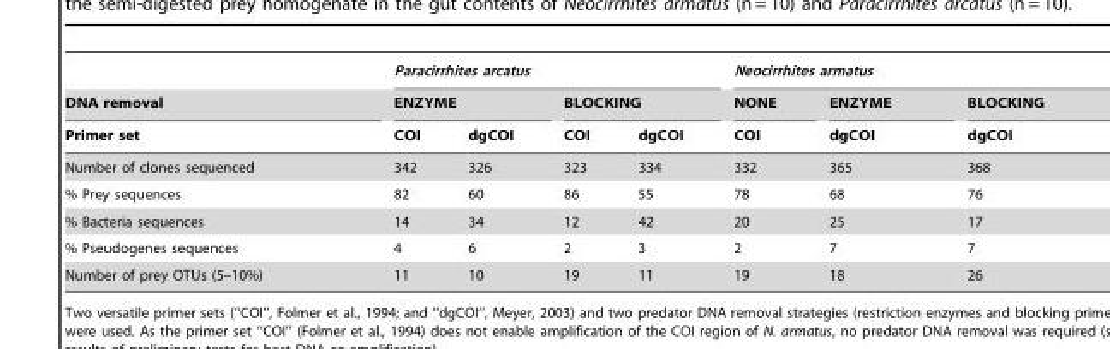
<table><thead><tr><td rowspan="3">DNA removal Primer set</td><td colspan="4">Paracirrhites arcatus</td><td colspan="3">Neocirrhites armatus</td></tr><tr><td colspan="2">ENZYME</td><td colspan="2">BLOCKING</td><td rowspan="2">NONE COI</td><td rowspan="2">ENZYME dgCOI</td><td rowspan="2">BLOCKING dgCOI</td></tr><tr><td>COI</td><td>dgCOI</td><td>COI</td><td>dgCOI</td></tr></thead><tbody><tr><td>Number of clones sequenced</td><td>342</td><td>326</td><td>323</td><td>334</td><td>332</td><td>365</td><td>368</td></tr><tr><td>% Prey sequences</td><td>82</td><td>60</td><td>86</td><td>55</td><td>78</td><td>68</td><td>76</td></tr><tr><td>% Bacteria sequences</td><td>14</td><td>34</td><td>12</td><td>42</td><td>20</td><td>25</td><td>17</td></tr><tr><td>% Pseudogenes sequences</td><td>4</td><td>6</td><td>2</td><td>3</td><td>2</td><td>7</td><td>7</td></tr><tr><td>Number of prey OTUs (5–10%)</td><td>11</td><td>10</td><td>19</td><td>11</td><td>19</td><td>18</td><td>26</td></tr></tbody></table>